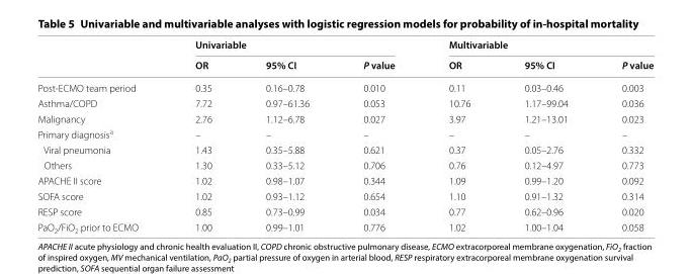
<table><thead><tr><td rowspan="2"></td><td colspan="3">Univariable</td><td colspan="3">Multivariable</td></tr><tr><td>OR</td><td>95% CI</td><td>P value</td><td>OR</td><td>95% CI</td><td>P value</td></tr></thead><tbody><tr><td>Post-ECMO team period</td><td>0.35</td><td>0.16–0.78</td><td>0.010</td><td>0.11</td><td>0.03–0.46</td><td>0.003</td></tr><tr><td>Asthma/COPD</td><td>7.72</td><td>0.97–61.36</td><td>0.053</td><td>10.76</td><td>1.17–99.04</td><td>0.036</td></tr><tr><td>Malignancy</td><td>2.76</td><td>1.12–6.78</td><td>0.027</td><td>3.97</td><td>1.21–13.01</td><td>0.023</td></tr><tr><td>Primary diagnosis<sup>a</sup></td><td>–</td><td>–</td><td>–</td><td>–</td><td>–</td><td>–</td></tr><tr><td>Viral pneumonia</td><td>1.43</td><td>0.35–5.88</td><td>0.621</td><td>0.37</td><td>0.05–2.76</td><td>0.332</td></tr><tr><td>Others</td><td>1.30</td><td>0.33–5.12</td><td>0.706</td><td>0.76</td><td>0.12–4.97</td><td>0.773</td></tr><tr><td>APACHE II score</td><td>1.02</td><td>0.98–1.07</td><td>0.344</td><td>1.09</td><td>0.99–1.20</td><td>0.092</td></tr><tr><td>SOFA score</td><td>1.02</td><td>0.93–1.12</td><td>0.654</td><td>1.10</td><td>0.91–1.32</td><td>0.314</td></tr><tr><td>RESP score</td><td>0.85</td><td>0.73–0.99</td><td>0.034</td><td>0.77</td><td>0.62–0.96</td><td>0.020</td></tr><tr><td>PaO<sub>2</sub>/FiO<sub>2</sub> prior to ECMO</td><td>1.00</td><td>0.99–1.01</td><td>0.776</td><td>1.02</td><td>1.00–1.04</td><td>0.058</td></tr></tbody></table>